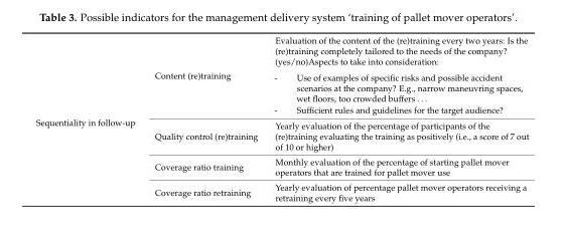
<table><tbody><tr><td rowspan="4">Sequentiality in follow-up</td><td>Content (re)training</td><td>Evaluation of the content of the (re)training every two years: Is the (re)training completely tailored to the needs of the company? (yes/no)Aspects to take into consideration: - Use of examples of specific risks and possible accident scenarios at the company? E.g., narrow maneuvring spaces, wet floors, too crowded buffers . . . - Sufficient rules and guidelines for the target audience?</td></tr><tr><td>Quality control (re)training</td><td>Yearly evaluation of the percentage of participants of the (re)training evaluating the training as positively (i.e., a score of 7 out of 10 or higher)</td></tr><tr><td>Coverage ratio training</td><td>Monthly evaluation of the percentage of starting pallet mover operators that are trained for pallet mover use</td></tr><tr><td>Coverage ratio retraining</td><td>Yearly evaluation of percentage pallet mover operators receiving a retraining every five years</td></tr></tbody></table>